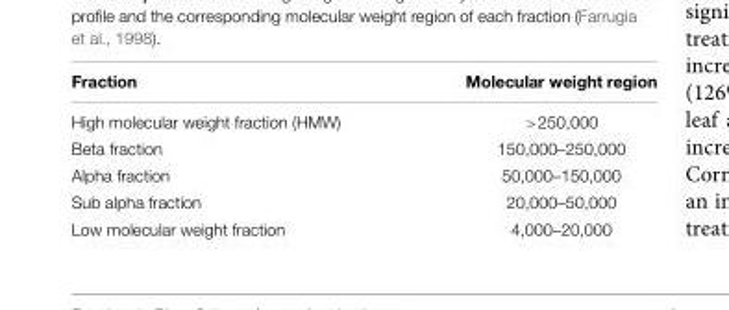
<table><thead><tr><td>Fraction</td><td>Molecular weight region</td></tr></thead><tbody><tr><td>High molecular weight fraction (HMW)</td><td>&gt;250,000</td></tr><tr><td>Beta fraction</td><td>150,000–250,000</td></tr><tr><td>Alpha fraction</td><td>50,000–150,000</td></tr><tr><td>Sub alpha fraction</td><td>20,000–50,000</td></tr><tr><td>Low molecular weight fraction</td><td>4,000–20,000</td></tr></tbody></table>